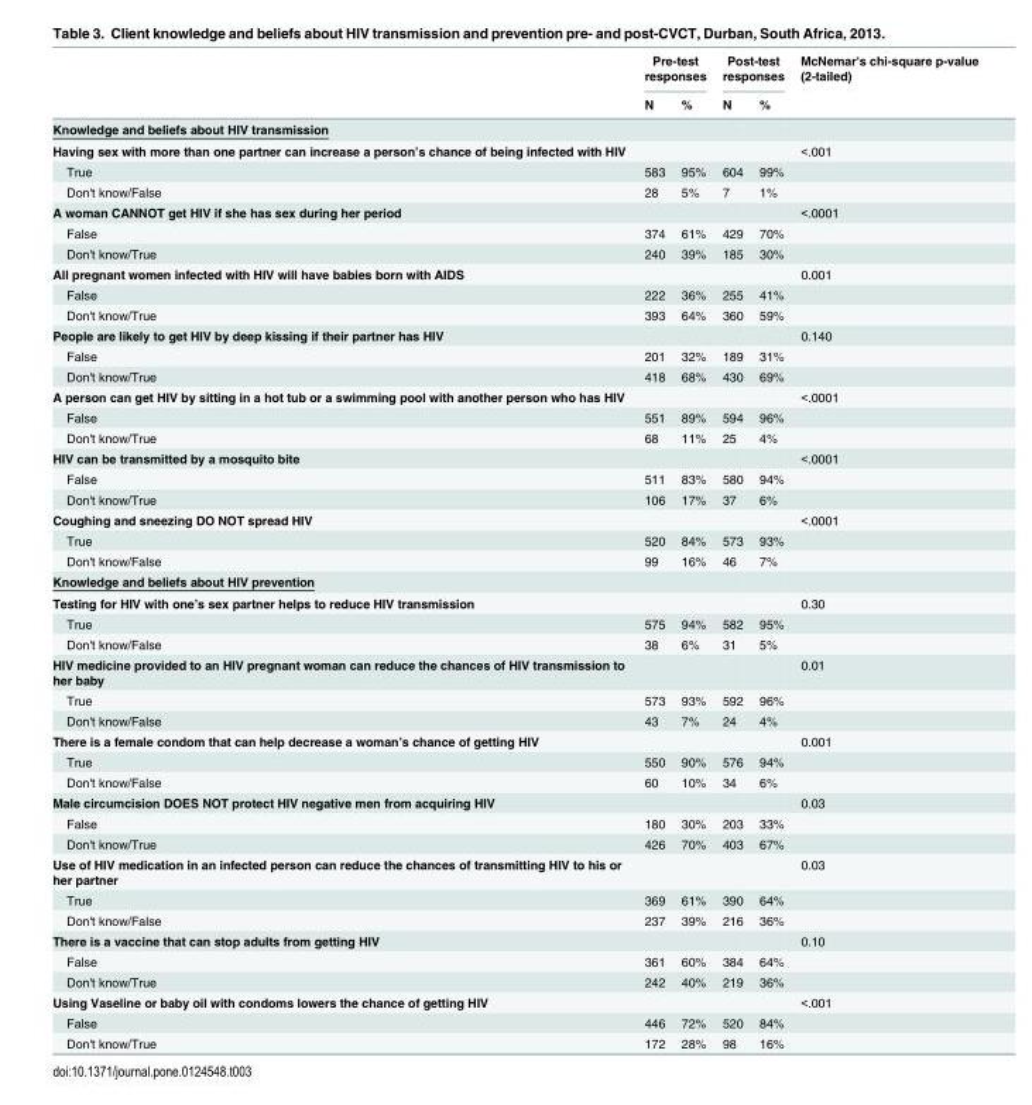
<table><thead><tr><td rowspan="2"></td><td colspan="2">Pre-test responses</td><td colspan="2">Post-test responses</td><td rowspan="2">McNemar&#x27;s chi-square p-value (2-tailed)</td></tr><tr><td>N</td><td>%</td><td>N</td><td>%</td></tr></thead><tbody><tr><td colspan="6">Knowledge and beliefs about HIV transmission</td></tr><tr><td>Having sex with more than one partner can increase a person’s chance of being infected with HIV</td><td></td><td></td><td></td><td></td><td>&lt;.001</td></tr><tr><td>True</td><td>583</td><td>95%</td><td>604</td><td>99%</td><td></td></tr><tr><td>Don&#x27;t know/False</td><td>28</td><td>5%</td><td>7</td><td>1%</td><td></td></tr><tr><td>A woman CANNOT get HIV if she has sex during her period</td><td></td><td></td><td></td><td></td><td>&lt;.0001</td></tr><tr><td>False</td><td>374</td><td>61%</td><td>429</td><td>70%</td><td></td></tr><tr><td>Don&#x27;t know/True</td><td>240</td><td>39%</td><td>185</td><td>30%</td><td></td></tr><tr><td>All pregnant women infected with HIV will have babies born with AIDS</td><td></td><td></td><td></td><td></td><td>0.001</td></tr><tr><td>False</td><td>222</td><td>36%</td><td>255</td><td>41%</td><td></td></tr><tr><td>Don&#x27;t know/True</td><td>393</td><td>64%</td><td>360</td><td>59%</td><td></td></tr><tr><td>People are likely to get HIV by deep kissing if their partner has HIV</td><td></td><td></td><td></td><td></td><td>0.140</td></tr><tr><td>False</td><td>201</td><td>32%</td><td>189</td><td>31%</td><td></td></tr><tr><td>Don&#x27;t know/True</td><td>418</td><td>68%</td><td>430</td><td>69%</td><td></td></tr><tr><td>A person can get HIV by sitting in a hot tub or a swimming pool with another person who has HIV</td><td></td><td></td><td></td><td></td><td>&lt;.0001</td></tr><tr><td>False</td><td>551</td><td>89%</td><td>594</td><td>96%</td><td></td></tr><tr><td>Don&#x27;t know/True</td><td>68</td><td>11%</td><td>25</td><td>4%</td><td></td></tr><tr><td>HIV can be transmitted by a mosquito bite</td><td></td><td></td><td></td><td></td><td>&lt;.0001</td></tr><tr><td>False</td><td>511</td><td>83%</td><td>580</td><td>94%</td><td></td></tr><tr><td>Don&#x27;t know/True</td><td>106</td><td>17%</td><td>37</td><td>6%</td><td></td></tr><tr><td>Coughing and sneezing DO NOT spread HIV</td><td></td><td></td><td></td><td></td><td>&lt;.0001</td></tr><tr><td>True</td><td>520</td><td>84%</td><td>573</td><td>93%</td><td></td></tr><tr><td>Don&#x27;t know/False</td><td>99</td><td>16%</td><td>46</td><td>7%</td><td></td></tr><tr><td colspan="6">Knowledge and beliefs about HIV prevention</td></tr><tr><td>Testing for HIV with one’s sex partner helps to reduce HIV transmission</td><td></td><td></td><td></td><td></td><td>0.30</td></tr><tr><td>True</td><td>575</td><td>94%</td><td>582</td><td>95%</td><td></td></tr><tr><td>Don&#x27;t know/False</td><td>38</td><td>6%</td><td>31</td><td>5%</td><td></td></tr><tr><td>HIV medicine provided to an HIV pregnant woman can reduce the chances of HIV transmission to her baby</td><td></td><td></td><td></td><td></td><td>0.01</td></tr><tr><td>True</td><td>573</td><td>93%</td><td>592</td><td>96%</td><td></td></tr><tr><td>Don&#x27;t know/False</td><td>43</td><td>7%</td><td>24</td><td>4%</td><td></td></tr><tr><td>There is a female condom that can help decrease a woman’s chance of getting HIV</td><td></td><td></td><td></td><td></td><td>0.001</td></tr><tr><td>True</td><td>550</td><td>90%</td><td>576</td><td>94%</td><td></td></tr><tr><td>Don&#x27;t know/False</td><td>60</td><td>10%</td><td>34</td><td>6%</td><td></td></tr><tr><td>Male circumcision DOES NOT protect HIV negative men from acquiring HIV</td><td></td><td></td><td></td><td></td><td>0.03</td></tr><tr><td>False</td><td>180</td><td>30%</td><td>203</td><td>33%</td><td></td></tr><tr><td>Don&#x27;t know/True</td><td>426</td><td>70%</td><td>403</td><td>67%</td><td></td></tr><tr><td>Use of HIV medication in an infected person can reduce the chances of transmitting HIV to his or her partner</td><td></td><td></td><td></td><td></td><td>0.03</td></tr><tr><td>True</td><td>369</td><td>61%</td><td>390</td><td>64%</td><td></td></tr><tr><td>Don&#x27;t know/False</td><td>237</td><td>39%</td><td>216</td><td>36%</td><td></td></tr><tr><td>There is a vaccine that can stop adults from getting HIV</td><td></td><td></td><td></td><td></td><td>0.10</td></tr><tr><td>False</td><td>361</td><td>60%</td><td>384</td><td>64%</td><td></td></tr><tr><td>Don&#x27;t know/True</td><td>242</td><td>40%</td><td>219</td><td>36%</td><td></td></tr><tr><td>Using Vaseline or baby oil with condoms lowers the chance of getting HIV</td><td></td><td></td><td></td><td></td><td>&lt;.001</td></tr><tr><td>False</td><td>446</td><td>72%</td><td>520</td><td>84%</td><td></td></tr><tr><td>Don&#x27;t know/True</td><td>172</td><td>28%</td><td>98</td><td>16%</td><td></td></tr></tbody></table>